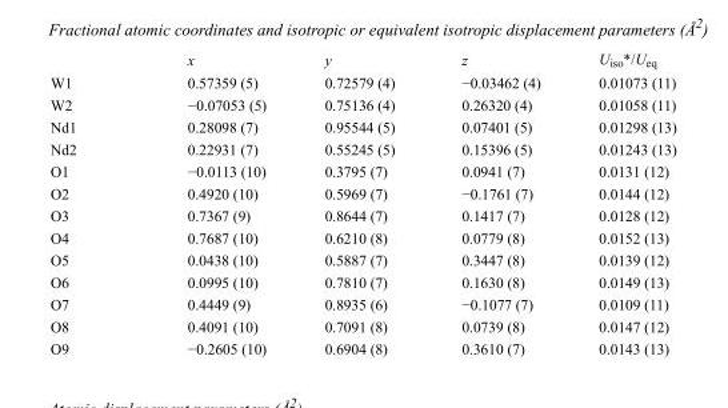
<table><thead><tr><td></td><td>x</td><td>y</td><td>z</td><td>U<sub>iso</sub>*/U<sub>eq</sub></td></tr></thead><tbody><tr><td>W1</td><td>0.57359 (5)</td><td>0.72579 (4)</td><td>−0.03462 (4)</td><td>0.01073 (11)</td></tr><tr><td>W2</td><td>−0.07053 (5)</td><td>0.75136 (4)</td><td>0.26320 (4)</td><td>0.01058 (11)</td></tr><tr><td>Nd1</td><td>0.28098 (7)</td><td>0.95544 (5)</td><td>0.07401 (5)</td><td>0.01298 (13)</td></tr><tr><td>Nd2</td><td>0.22931 (7)</td><td>0.55245 (5)</td><td>0.15396 (5)</td><td>0.01243 (13)</td></tr><tr><td>O1</td><td>−0.0113 (10)</td><td>0.3795 (7)</td><td>0.0941 (7)</td><td>0.0131 (12)</td></tr><tr><td>O2</td><td>0.4920 (10)</td><td>0.5969 (7)</td><td>−0.1761 (7)</td><td>0.0144 (12)</td></tr><tr><td>O3</td><td>0.7367 (9)</td><td>0.8644 (7)</td><td>0.1417 (7)</td><td>0.0128 (12)</td></tr><tr><td>O4</td><td>0.7687 (10)</td><td>0.6210 (8)</td><td>0.0779 (8)</td><td>0.0152 (13)</td></tr><tr><td>O5</td><td>0.0438 (10)</td><td>0.5887 (7)</td><td>0.3447 (8)</td><td>0.0139 (12)</td></tr><tr><td>O6</td><td>0.0995 (10)</td><td>0.7810 (7)</td><td>0.1630 (8)</td><td>0.0149 (13)</td></tr><tr><td>O7</td><td>0.4449 (9)</td><td>0.8935 (6)</td><td>−0.1077 (7)</td><td>0.0109 (11)</td></tr><tr><td>O8</td><td>0.4091 (10)</td><td>0.7091 (8)</td><td>0.0739 (8)</td><td>0.0147 (12)</td></tr><tr><td>O9</td><td>−0.2605 (10)</td><td>0.6904 (8)</td><td>0.3610 (7)</td><td>0.0143 (13)</td></tr></tbody></table>